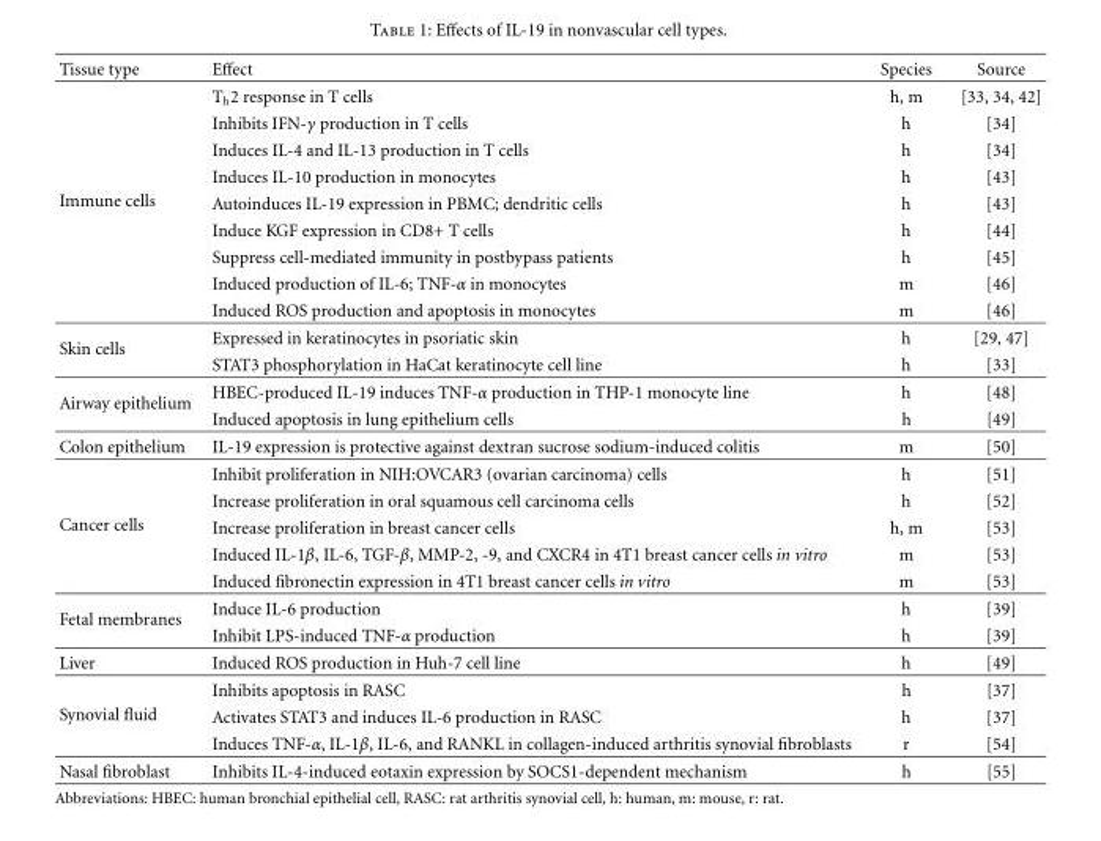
<table><thead><tr><td>Tissue type</td><td>Effect</td><td>Species</td><td>Source</td></tr></thead><tbody><tr><td rowspan="9">Immune cells</td><td>T<sub>h</sub>2 response in T cells</td><td>h, m</td><td>[33, 34, 42]</td></tr><tr><td>Inhibits IFN-γ production in T cells</td><td>h</td><td>[34]</td></tr><tr><td>Induces IL-4 and IL-13 production in T cells</td><td>h</td><td>[34]</td></tr><tr><td>Induces IL-10 production in monocytes</td><td>h</td><td>[43]</td></tr><tr><td>Autoinduces IL-19 expression in PBMC; dendritic cells</td><td>h</td><td>[43]</td></tr><tr><td>Induce KGF expression in CD8+ T cells</td><td>h</td><td>[44]</td></tr><tr><td>Suppress cell-mediated immunity in postbypass patients</td><td>h</td><td>[45]</td></tr><tr><td>Induced production of IL-6; TNF-α in monocytes</td><td>m</td><td>[46]</td></tr><tr><td>Induced ROS production and apoptosis in monocytes</td><td>m</td><td>[46]</td></tr><tr><td rowspan="2">Skin cells</td><td>Expressed in keratinocytes in psoriatic skin</td><td>h</td><td>[29, 47]</td></tr><tr><td>STAT3 phosphorylation in HaCat keratinocyte cell line</td><td>h</td><td>[33]</td></tr><tr><td rowspan="2">Airway epithelium</td><td>HBEC-produced IL-19 induces TNF-α production in THP-1 monocyte line</td><td>h</td><td>[48]</td></tr><tr><td>Induced apoptosis in lung epithelium cells</td><td>h</td><td>[49]</td></tr><tr><td>Colon epithelium</td><td>IL-19 expression is protective against dextran sucrose sodium-induced colitis</td><td>m</td><td>[50]</td></tr><tr><td rowspan="5">Cancer cells</td><td>Inhibit proliferation in NIH:OVCAR3 (ovarian carcinoma) cells</td><td>h</td><td>[51]</td></tr><tr><td>Increase proliferation in oral squamous cell carcinoma cells</td><td>h</td><td>[52]</td></tr><tr><td>Increase proliferation in breast cancer cells</td><td>h, m</td><td>[53]</td></tr><tr><td>Induced IL-1β, IL-6, TGF-β, MMP-2, -9, and CXCR4 in 4T1 breast cancer cells in vitro</td><td>m</td><td>[53]</td></tr><tr><td>Induced fibronectin expression in 4T1 breast cancer cells in vitro</td><td>m</td><td>[53]</td></tr><tr><td rowspan="2">Fetal membranes</td><td>Induce IL-6 production</td><td>h</td><td>[39]</td></tr><tr><td>Inhibit LPS-induced TNF-α production</td><td>h</td><td>[39]</td></tr><tr><td>Liver</td><td>Induced ROS production in Huh-7 cell line</td><td>h</td><td>[49]</td></tr><tr><td rowspan="3">Synovial fluid</td><td>Inhibits apoptosis in RASC</td><td>h</td><td>[37]</td></tr><tr><td>Activates STAT3 and induces IL-6 production in RASC</td><td>h</td><td>[37]</td></tr><tr><td>Induces TNF-α, IL-1β, IL-6, and RANKL in collagen-induced arthritis synovial fibroblasts</td><td>r</td><td>[54]</td></tr><tr><td>Nasal fibroblast</td><td>Inhibits IL-4-induced eotaxin expression by SOCS1-dependent mechanism</td><td>h</td><td>[55]</td></tr></tbody></table>